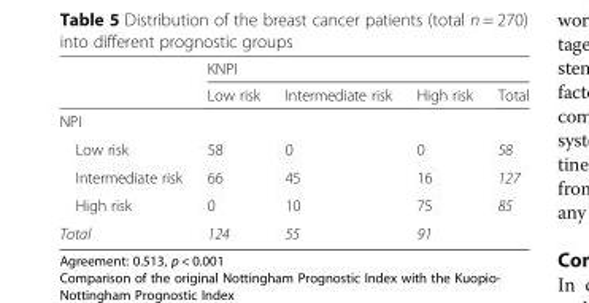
<table><thead><tr><td rowspan="2"></td><td colspan="4">KNPI</td></tr><tr><td>Low risk</td><td>Intermediate risk</td><td>High risk</td><td>Total</td></tr></thead><tbody><tr><td colspan="5">NPI</td></tr><tr><td>Low risk</td><td>58</td><td>0</td><td>0</td><td>58</td></tr><tr><td>Intermediate risk</td><td>66</td><td>45</td><td>16</td><td>127</td></tr><tr><td>High risk</td><td>0</td><td>10</td><td>75</td><td>85</td></tr><tr><td>Total</td><td>124</td><td>55</td><td>91</td><td></td></tr></tbody></table>